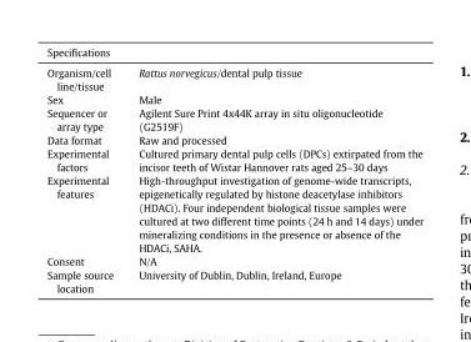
<table><thead><tr><td colspan="2">Specifications</td></tr><tr><td>Organism/cell line/tissue</td><td>Rattus norvegicus/dental pulp tissue</td></tr></thead><tbody><tr><td>Sex</td><td>Male</td></tr><tr><td>Sequencer or array type</td><td>Agilent Sure Print 4x44K array in situ oligonucleotide (G2519F)</td></tr><tr><td>Data format</td><td>Raw and processed</td></tr><tr><td>Experimental factors</td><td>Cultured primary dental pulp cells (DPCs) extirpated from the incisor teeth of Wistar Hannover rats aged 25–30 days</td></tr><tr><td>Experimental features</td><td>High-throughput investigation of genome-wide transcripts, epigenetically regulated by histone deacetylase inhibitors (HDACi). Four independent biological tissue samples were cultured at two different time points (24 h and 14 days) under mineralizing conditions in the presence or absence of the HDACi, SAHA.</td></tr><tr><td>Consent</td><td>N/A</td></tr><tr><td>Sample source location</td><td>University of Dublin, Dublin, Ireland, Europe</td></tr></tbody></table>